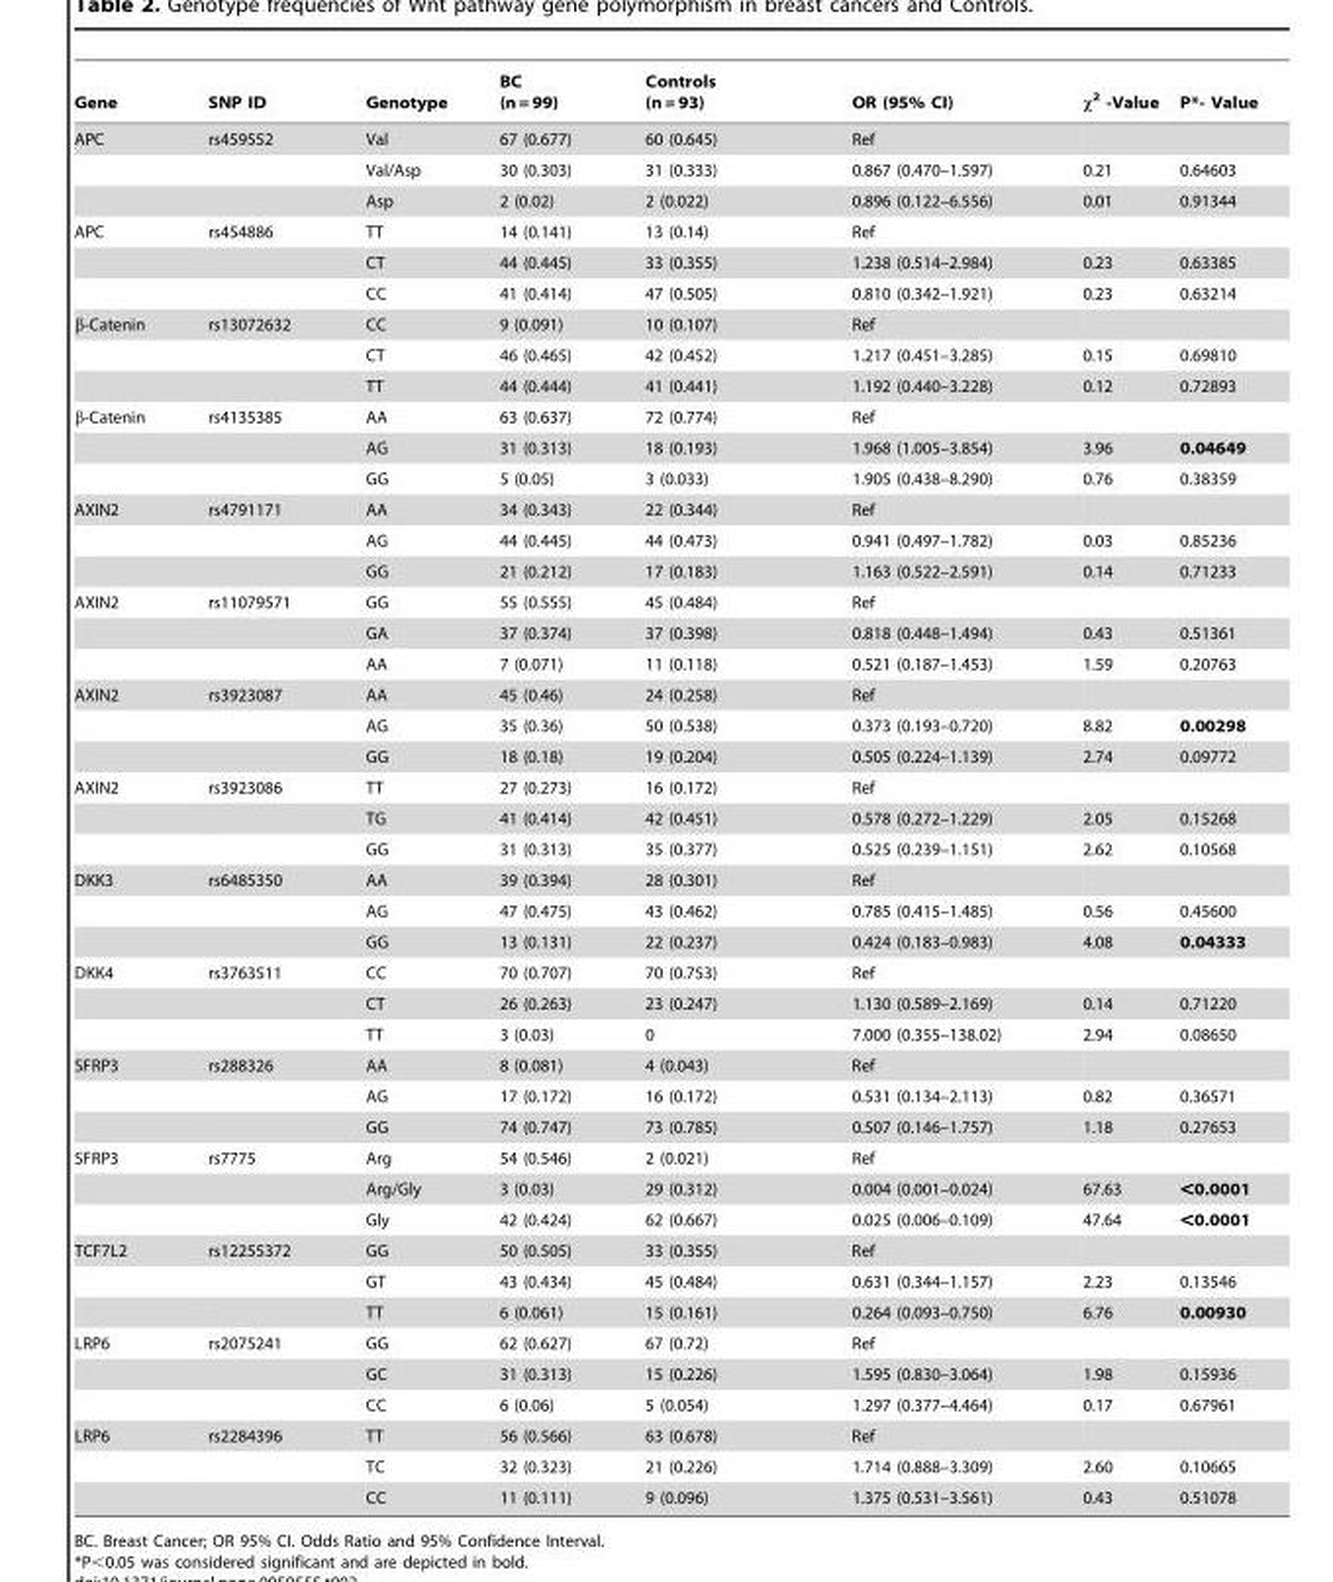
<table><thead><tr><td>Gene</td><td>SNP ID</td><td>Genotype</td><td>BC (n = 99)</td><td>Controls (n = 93)</td><td>OR (95% CI)</td><td>χ<sup>2</sup> -Value</td><td>P*- Value</td></tr></thead><tbody><tr><td rowspan="3">APC</td><td>rs459552</td><td>Val</td><td>67 (0.677)</td><td>60 (0.645)</td><td>Ref</td><td></td><td></td></tr><tr><td></td><td>Val/Asp</td><td>30 (0.303)</td><td>31 (0.333)</td><td>0.867 (0.470–1.597)</td><td>0.21</td><td>0.64603</td></tr><tr><td></td><td>Asp</td><td>2 (0.02)</td><td>2 (0.022)</td><td>0.896 (0.122–6.556)</td><td>0.01</td><td>0.91344</td></tr><tr><td rowspan="3">APC</td><td>rs454886</td><td>TT</td><td>14 (0.141)</td><td>13 (0.14)</td><td>Ref</td><td></td><td></td></tr><tr><td></td><td>CT</td><td>44 (0.445)</td><td>33 (0.355)</td><td>1.238 (0.514–2.984)</td><td>0.23</td><td>0.63385</td></tr><tr><td></td><td>CC</td><td>41 (0.414)</td><td>47 (0.505)</td><td>0.810 (0.342–1.921)</td><td>0.23</td><td>0.63214</td></tr><tr><td rowspan="3">β-Catenin</td><td>rs13072632</td><td>CC</td><td>9 (0.091)</td><td>10 (0.107)</td><td>Ref</td><td></td><td></td></tr><tr><td></td><td>CT</td><td>46 (0.465)</td><td>42 (0.452)</td><td>1.217 (0.451–3.285)</td><td>0.15</td><td>0.69810</td></tr><tr><td></td><td>TT</td><td>44 (0.444)</td><td>41 (0.441)</td><td>1.192 (0.440–3.228)</td><td>0.12</td><td>0.72893</td></tr><tr><td rowspan="3">β-Catenin</td><td>rs4135385</td><td>AA</td><td>63 (0.637)</td><td>72 (0.774)</td><td>Ref</td><td></td><td></td></tr><tr><td></td><td>AG</td><td>31 (0.313)</td><td>18 (0.193)</td><td>1.968 (1.005–3.854)</td><td>3.96</td><td>0.04649</td></tr><tr><td></td><td>GG</td><td>5 (0.05)</td><td>3 (0.033)</td><td>1.905 (0.438–8.290)</td><td>0.76</td><td>0.38359</td></tr><tr><td rowspan="3">AXIN2</td><td>rs4791171</td><td>AA</td><td>34 (0.343)</td><td>22 (0.344)</td><td>Ref</td><td></td><td></td></tr><tr><td></td><td>AG</td><td>44 (0.445)</td><td>44 (0.473)</td><td>0.941 (0.497–1.782)</td><td>0.03</td><td>0.85236</td></tr><tr><td></td><td>GG</td><td>21 (0.212)</td><td>17 (0.183)</td><td>1.163 (0.522–2.591)</td><td>0.14</td><td>0.71233</td></tr><tr><td rowspan="3">AXIN2</td><td>rs11079571</td><td>GG</td><td>55 (0.555)</td><td>45 (0.484)</td><td>Ref</td><td></td><td></td></tr><tr><td></td><td>GA</td><td>37 (0.374)</td><td>37 (0.398)</td><td>0.818 (0.448–1.494)</td><td>0.43</td><td>0.51361</td></tr><tr><td></td><td>AA</td><td>7 (0.071)</td><td>11 (0.118)</td><td>0.521 (0.187–1.453)</td><td>1.59</td><td>0.20763</td></tr><tr><td rowspan="3">AXIN2</td><td>rs3923087</td><td>AA</td><td>45 (0.46)</td><td>24 (0.258)</td><td>Ref</td><td></td><td></td></tr><tr><td></td><td>AG</td><td>35 (0.36)</td><td>50 (0.538)</td><td>0.373 (0.193–0.720)</td><td>8.82</td><td>0.00298</td></tr><tr><td></td><td>GG</td><td>18 (0.18)</td><td>19 (0.204)</td><td>0.505 (0.224–1.139)</td><td>2.74</td><td>0.09772</td></tr><tr><td rowspan="3">AXIN2</td><td>rs3923086</td><td>TT</td><td>27 (0.273)</td><td>16 (0.172)</td><td>Ref</td><td></td><td></td></tr><tr><td></td><td>TG</td><td>41 (0.414)</td><td>42 (0.451)</td><td>0.578 (0.272–1.229)</td><td>2.05</td><td>0.15268</td></tr><tr><td></td><td>GG</td><td>31 (0.313)</td><td>35 (0.377)</td><td>0.525 (0.239–1.151)</td><td>2.62</td><td>0.10568</td></tr><tr><td rowspan="3">DKK3</td><td>rs6485350</td><td>AA</td><td>39 (0.394)</td><td>28 (0.301)</td><td>Ref</td><td></td><td></td></tr><tr><td></td><td>AG</td><td>47 (0.475)</td><td>43 (0.462)</td><td>0.785 (0.415–1.485)</td><td>0.56</td><td>0.45600</td></tr><tr><td></td><td>GG</td><td>13 (0.131)</td><td>22 (0.237)</td><td>0.424 (0.183–0.983)</td><td>4.08</td><td>0.04333</td></tr><tr><td rowspan="3">DKK4</td><td>rs3763511</td><td>CC</td><td>70 (0.707)</td><td>70 (0.753)</td><td>Ref</td><td></td><td></td></tr><tr><td></td><td>CT</td><td>26 (0.263)</td><td>23 (0.247)</td><td>1.130 (0.589–2.169)</td><td>0.14</td><td>0.71220</td></tr><tr><td></td><td>TT</td><td>3 (0.03)</td><td>0</td><td>7.000 (0.355–138.02)</td><td>2.94</td><td>0.08650</td></tr><tr><td rowspan="3">SFRP3</td><td>rs288326</td><td>AA</td><td>8 (0.081)</td><td>4 (0.043)</td><td>Ref</td><td></td><td></td></tr><tr><td></td><td>AG</td><td>17 (0.172)</td><td>16 (0.172)</td><td>0.531 (0.134–2.113)</td><td>0.82</td><td>0.36571</td></tr><tr><td></td><td>GG</td><td>74 (0.747)</td><td>73 (0.785)</td><td>0.507 (0.146–1.757)</td><td>1.18</td><td>0.27653</td></tr><tr><td rowspan="3">SFRP3</td><td>rs7775</td><td>Arg</td><td>54 (0.546)</td><td>2 (0.021)</td><td>Ref</td><td></td><td></td></tr><tr><td></td><td>Arg/Gly</td><td>3 (0.03)</td><td>29 (0.312)</td><td>0.004 (0.001–0.024)</td><td>67.63</td><td>&lt;0.0001</td></tr><tr><td></td><td>Gly</td><td>42 (0.424)</td><td>62 (0.667)</td><td>0.025 (0.006–0.109)</td><td>47.64</td><td>&lt;0.0001</td></tr><tr><td rowspan="3">TCF7L2</td><td>rs12255372</td><td>GG</td><td>50 (0.505)</td><td>33 (0.355)</td><td>Ref</td><td></td><td></td></tr><tr><td></td><td>GT</td><td>43 (0.434)</td><td>45 (0.484)</td><td>0.631 (0.344–1.157)</td><td>2.23</td><td>0.13546</td></tr><tr><td></td><td>TT</td><td>6 (0.061)</td><td>15 (0.161)</td><td>0.264 (0.093–0.750)</td><td>6.76</td><td>0.00930</td></tr><tr><td rowspan="3">LRP6</td><td>rs2075241</td><td>GG</td><td>62 (0.627)</td><td>67 (0.72)</td><td>Ref</td><td></td><td></td></tr><tr><td></td><td>GC</td><td>31 (0.313)</td><td>15 (0.226)</td><td>1.595 (0.830–3.064)</td><td>1.98</td><td>0.15936</td></tr><tr><td></td><td>CC</td><td>6 (0.06)</td><td>5 (0.054)</td><td>1.297 (0.377–4.464)</td><td>0.17</td><td>0.67961</td></tr><tr><td rowspan="3">LRP6</td><td>rs2284396</td><td>TT</td><td>56 (0.566)</td><td>63 (0.678)</td><td>Ref</td><td></td><td></td></tr><tr><td></td><td>TC</td><td>32 (0.323)</td><td>21 (0.226)</td><td>1.714 (0.888–3.309)</td><td>2.60</td><td>0.10665</td></tr><tr><td></td><td>CC</td><td>11 (0.111)</td><td>9 (0.096)</td><td>1.375 (0.531–3.561)</td><td>0.43</td><td>0.51078</td></tr></tbody></table>